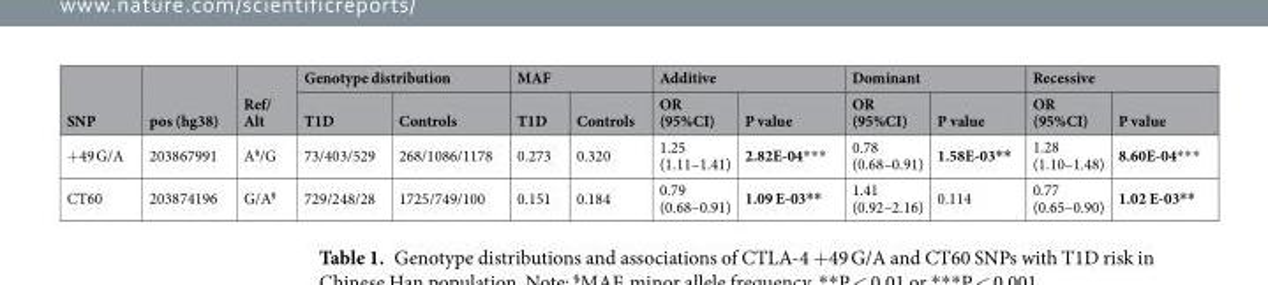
<table><thead><tr><td rowspan="2">SNP</td><td rowspan="2">pos (hg38)</td><td rowspan="2">Ref/ Alt</td><td colspan="2">Genotype distribution</td><td colspan="2">MAF</td><td colspan="2">Additive</td><td colspan="2">Dominant</td><td colspan="2">Recessive</td></tr><tr><td>T1D</td><td>Controls</td><td>T1D</td><td>Controls</td><td>OR (95%CI)</td><td>P value</td><td>OR (95%CI)</td><td>P value</td><td>OR (95%CI)</td><td>P value</td></tr></thead><tbody><tr><td>+49 G/A</td><td>203867991</td><td>A<sup>§</sup>/G</td><td>73/403/529</td><td>268/1086/1178</td><td>0.273</td><td>0.320</td><td>1.25 (1.11–1.41)</td><td>2.82E-04***</td><td>0.78 (0.68–0.91)</td><td>1.58E-03**</td><td>1.28 (1.10–1.48)</td><td>8.60E-04***</td></tr><tr><td>CT60</td><td>203874196</td><td>G/A<sup>§</sup></td><td>729/248/28</td><td>1725/749/100</td><td>0.151</td><td>0.184</td><td>0.79 (0.68–0.91)</td><td>1.09 E-03**</td><td>1.41 (0.92–2.16)</td><td>0.114</td><td>0.77 (0.65–0.90)</td><td>1.02 E-03**</td></tr></tbody></table>